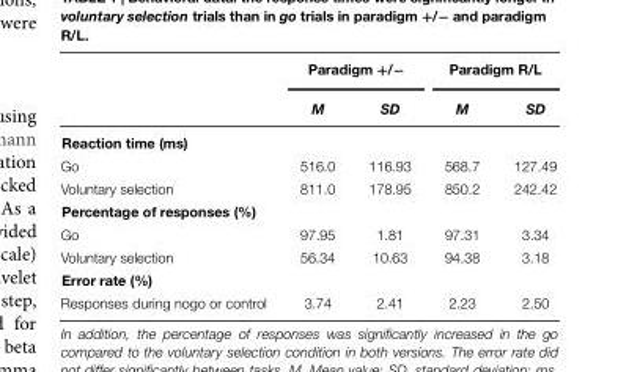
<table><thead><tr><td rowspan="2"></td><td colspan="2">Paradigm +/−</td><td colspan="2">Paradigm R/L</td></tr><tr><td>M</td><td>SD</td><td>M</td><td>SD</td></tr></thead><tbody><tr><td colspan="5">Reaction time (ms)</td></tr><tr><td>Go</td><td>516.0</td><td>116.93</td><td>568.7</td><td>127.49</td></tr><tr><td>Voluntary selection</td><td>811.0</td><td>178.95</td><td>850.2</td><td>242.42</td></tr><tr><td colspan="5">Percentage of responses (%)</td></tr><tr><td>Go</td><td>97.95</td><td>1.81</td><td>97.31</td><td>3.34</td></tr><tr><td>Voluntary selection</td><td>56.34</td><td>10.63</td><td>94.38</td><td>3.18</td></tr><tr><td colspan="5">Error rate (%)</td></tr><tr><td>Responses during nogo or control</td><td>3.74</td><td>2.41</td><td>2.23</td><td>2.50</td></tr></tbody></table>